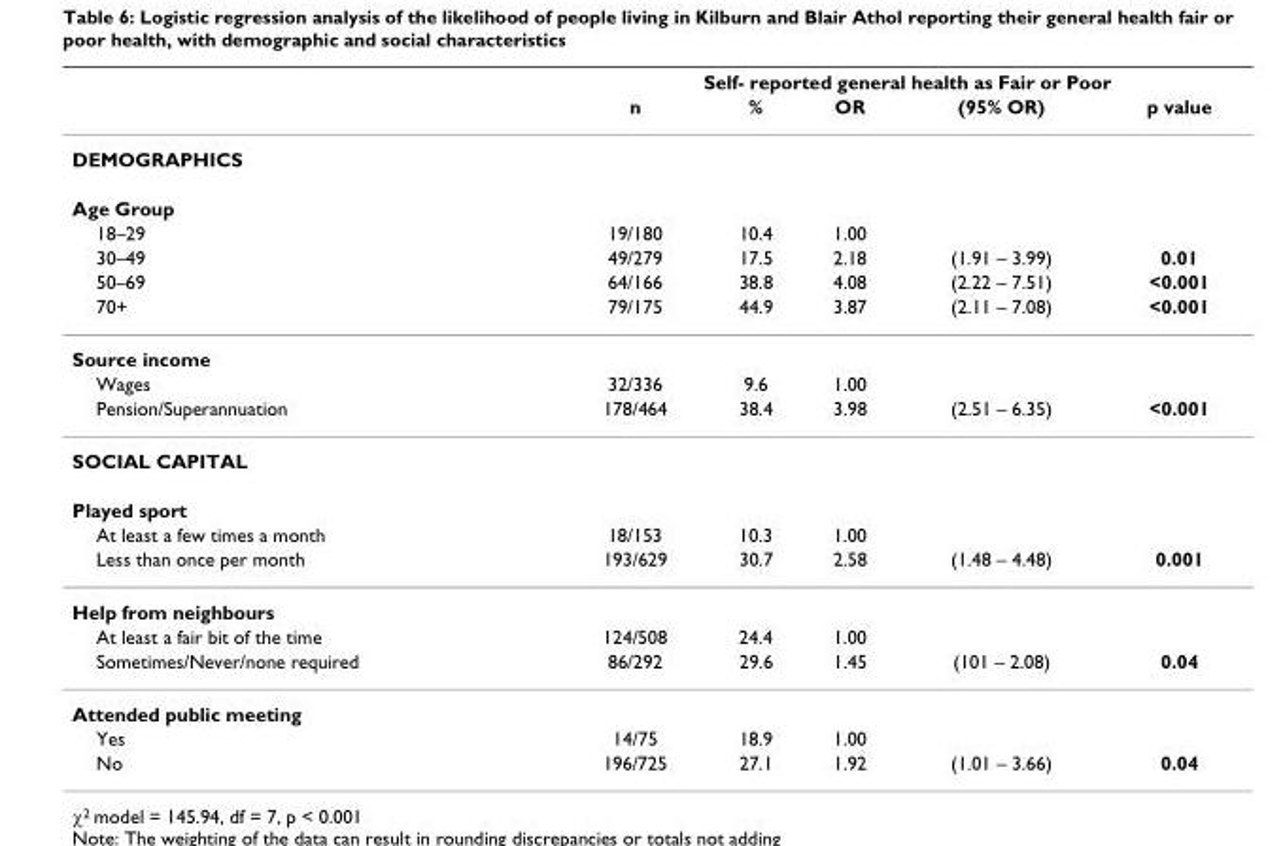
<table><thead><tr><td rowspan="2"></td><td colspan="5">Self- reported general health as Fair or Poor</td></tr><tr><td>n</td><td>%</td><td>OR</td><td>(95% OR)</td><td>p value</td></tr></thead><tbody><tr><td colspan="6">DEMOGRAPHICS</td></tr><tr><td colspan="6">Age Group</td></tr><tr><td>18–29</td><td>19/180</td><td>10.4</td><td>1.00</td><td></td><td></td></tr><tr><td>30–49</td><td>49/279</td><td>17.5</td><td>2.18</td><td>(1.91 – 3.99)</td><td>0.01</td></tr><tr><td>50–69</td><td>64/166</td><td>38.8</td><td>4.08</td><td>(2.22 – 7.51)</td><td>&lt;0.001</td></tr><tr><td>70+</td><td>79/175</td><td>44.9</td><td>3.87</td><td>(2.11 – 7.08)</td><td>&lt;0.001</td></tr><tr><td colspan="6">Source income</td></tr><tr><td>Wages</td><td>32/336</td><td>9.6</td><td>1.00</td><td></td><td></td></tr><tr><td>Pension/Superannuation</td><td>178/464</td><td>38.4</td><td>3.98</td><td>(2.51 – 6.35)</td><td>&lt;0.001</td></tr><tr><td colspan="6">SOCIAL CAPITAL</td></tr><tr><td colspan="6">Played sport</td></tr><tr><td>At least a few times a month</td><td>18/153</td><td>10.3</td><td>1.00</td><td></td><td></td></tr><tr><td>Less than once per month</td><td>193/629</td><td>30.7</td><td>2.58</td><td>(1.48 – 4.48)</td><td>0.001</td></tr><tr><td colspan="6">Help from neighbours</td></tr><tr><td>At least a fair bit of the time</td><td>124/508</td><td>24.4</td><td>1.00</td><td></td><td></td></tr><tr><td>Sometimes/Never/none required</td><td>86/292</td><td>29.6</td><td>1.45</td><td>(101 – 2.08)</td><td>0.04</td></tr><tr><td colspan="6">Attended public meeting</td></tr><tr><td>Yes</td><td>14/75</td><td>18.9</td><td>1.00</td><td></td><td></td></tr><tr><td>No</td><td>196/725</td><td>27.1</td><td>1.92</td><td>(1.01 – 3.66)</td><td>0.04</td></tr></tbody></table>